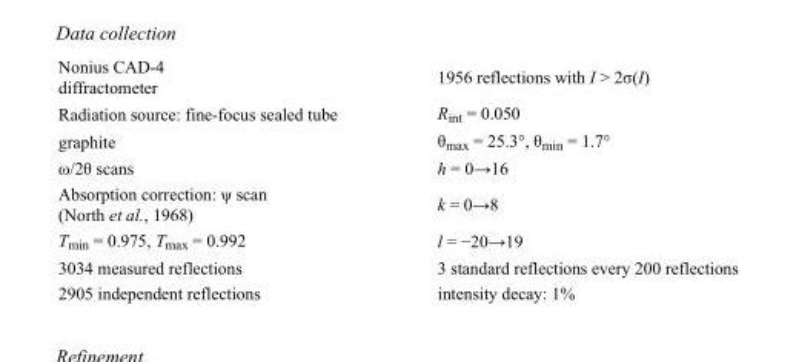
<table><tbody><tr><td>Nonius CAD-4 diffractometer</td><td>1956 reflections with I &gt; 2σ(I)</td></tr><tr><td>Radiation source: fine-focus sealed tube</td><td>R<sub>int</sub> = 0.050</td></tr><tr><td>graphite</td><td>θ<sub>max</sub> = 25.3°, θ<sub>min</sub> = 1.7°</td></tr><tr><td>ω/2θ scans</td><td>h = 0→16</td></tr><tr><td>Absorption correction: ψ scan (North et al., 1968)</td><td>k = 0→8</td></tr><tr><td>T<sub>min</sub> = 0.975, T<sub>max</sub> = 0.992</td><td>l = −20→19</td></tr><tr><td>3034 measured reflections</td><td>3 standard reflections every 200 reflections</td></tr><tr><td>2905 independent reflections</td><td>intensity decay: 1%</td></tr></tbody></table>